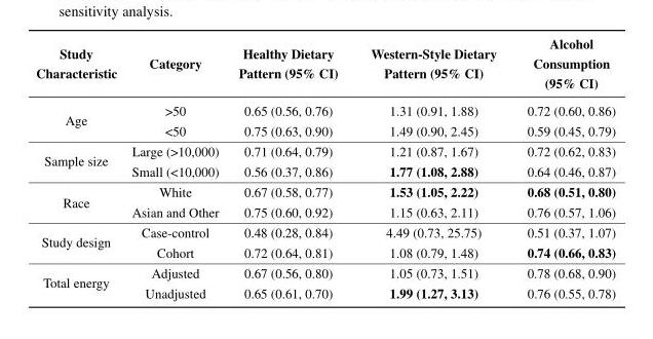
<table><thead><tr><td>Study Characteristic</td><td>Category</td><td>Healthy Dietary Pattern (95% CI)</td><td>Western-Style Dietary Pattern (95% CI)</td><td>Alcohol Consumption (95% CI)</td></tr></thead><tbody><tr><td rowspan="2">Age</td><td>&gt;50</td><td>0.65 (0.56, 0.76)</td><td>1.31 (0.91, 1.88)</td><td>0.72 (0.60, 0.86)</td></tr><tr><td>&lt;50</td><td>0.75 (0.63, 0.90)</td><td>1.49 (0.90, 2.45)</td><td>0.59 (0.45, 0.79)</td></tr><tr><td rowspan="2">Sample size</td><td>Large (&gt;10,000)</td><td>0.71 (0.64, 0.79)</td><td>1.21 (0.87, 1.67)</td><td>0.72 (0.62, 0.83)</td></tr><tr><td>Small (&lt;10,000)</td><td>0.56 (0.37, 0.86)</td><td>1.77 (1.08, 2.88)</td><td>0.64 (0.46, 0.87)</td></tr><tr><td rowspan="2">Race</td><td>White</td><td>0.67 (0.58, 0.77)</td><td>1.53 (1.05, 2.22)</td><td>0.68 (0.51, 0.80)</td></tr><tr><td>Asian and Other</td><td>0.75 (0.60, 0.92)</td><td>1.15 (0.63, 2.11)</td><td>0.76 (0.57, 1.06)</td></tr><tr><td rowspan="2">Study design</td><td>Case-control</td><td>0.48 (0.28, 0.84)</td><td>4.49 (0.73, 25.75)</td><td>0.51 (0.37, 1.07)</td></tr><tr><td>Cohort</td><td>0.72 (0.64, 0.81)</td><td>1.08 (0.79, 1.48)</td><td>0.74 (0.66, 0.83)</td></tr><tr><td rowspan="2">Total energy</td><td>Adjusted</td><td>0.67 (0.56, 0.80)</td><td>1.05 (0.73, 1.51)</td><td>0.78 (0.68, 0.90)</td></tr><tr><td>Unadjusted</td><td>0.65 (0.61, 0.70)</td><td>1.99 (1.27, 3.13)</td><td>0.76 (0.55, 0.78)</td></tr></tbody></table>